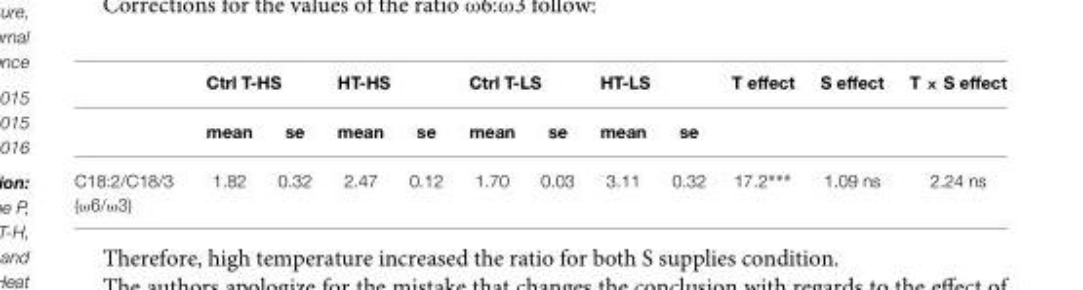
<table><thead><tr><td rowspan="2"></td><td colspan="2">Ctrl T-HS</td><td colspan="2">HT-HS</td><td colspan="2">Ctrl T-LS</td><td colspan="2">HT-LS</td><td rowspan="2">T effect</td><td rowspan="2">S effect</td><td rowspan="2">T × S effect</td></tr><tr><td>mean</td><td>se</td><td>mean</td><td>se</td><td>mean</td><td>se</td><td>mean</td><td>se</td></tr></thead><tbody><tr><td>C18:2/C18/3 (ω6/ω3)</td><td>1.82</td><td>0.32</td><td>2.47</td><td>0.12</td><td>1.70</td><td>0.03</td><td>3.11</td><td>0.32</td><td>17.2∗∗∗</td><td>1.09 ns</td><td>2.24 ns</td></tr></tbody></table>